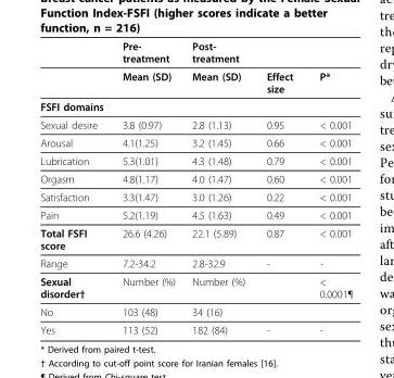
<table><thead><tr><td></td><td>Pre- treatment</td><td>Post- treatment</td><td></td><td></td></tr></thead><tbody><tr><td></td><td>Mean (SD)</td><td>Mean (SD)</td><td>Effect size</td><td>P*</td></tr><tr><td colspan="5">FSFI domains</td></tr><tr><td>Sexual desire</td><td>3.8 (0.97)</td><td>2.8 (1.13)</td><td>0.95</td><td>&lt; 0.001</td></tr><tr><td>Arousal</td><td>4.1(1.25)</td><td>3.2 (1.45)</td><td>0.66</td><td>&lt; 0.001</td></tr><tr><td>Lubrication</td><td>5.3(1.01)</td><td>4.3 (1.48)</td><td>0.79</td><td>&lt; 0.001</td></tr><tr><td>Orgasm</td><td>4.8(1.17)</td><td>4.0 (1.47)</td><td>0.60</td><td>&lt; 0.001</td></tr><tr><td>Satisfaction</td><td>3.3(1.47)</td><td>3.0 (1.26)</td><td>0.22</td><td>&lt; 0.001</td></tr><tr><td>Pain</td><td>5.2(1.19)</td><td>4.5 (1.63)</td><td>0.49</td><td>&lt; 0.001</td></tr><tr><td>Total FSFI score</td><td>26.6 (4.26)</td><td>22.1 (5.89)</td><td>0.87</td><td>&lt; 0.001</td></tr><tr><td>Range</td><td>7.2-34.2</td><td>2.8-32.9</td><td>-</td><td>-</td></tr><tr><td>Sexual disorder†</td><td>Number (%)</td><td>Number (%)</td><td></td><td>&lt; 0.0001¶</td></tr><tr><td>No</td><td>103 (48)</td><td>34 (16)</td><td></td><td></td></tr><tr><td>Yes</td><td>113 (52)</td><td>182 (84)</td><td>-</td><td>-</td></tr></tbody></table>